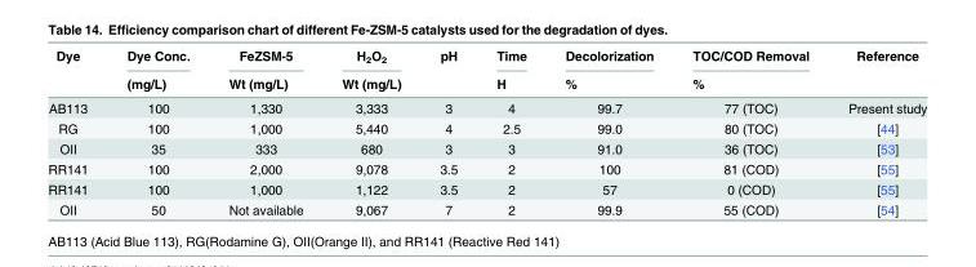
<table><thead><tr><td rowspan="2">Dye</td><td rowspan="2">Dye Conc. (mg/L)</td><td rowspan="2">FeZSM-5 Wt (mg/L)</td><td rowspan="2">H<sub>2</sub>O<sub>2</sub> Wt (mg/L)</td><td rowspan="2">pH</td><td rowspan="2">Time H</td><td rowspan="2">Decolorization %</td><td rowspan="2">TOC/COD Removal %</td><td rowspan="2">Reference</td></tr><tr></tr></thead><tbody><tr><td>AB113</td><td>100</td><td>1,330</td><td>3,333</td><td>3</td><td>4</td><td>99.7</td><td>77 (TOC)</td><td>Present study</td></tr><tr><td>RG</td><td>100</td><td>1,000</td><td>5,440</td><td>4</td><td>2.5</td><td>99.0</td><td>80 (TOC)</td><td>[44]</td></tr><tr><td>OII</td><td>35</td><td>333</td><td>680</td><td>3</td><td>3</td><td>91.0</td><td>36 (TOC)</td><td>[53]</td></tr><tr><td>RR141</td><td>100</td><td>2,000</td><td>9,078</td><td>3.5</td><td>2</td><td>100</td><td>81 (COD)</td><td>[55]</td></tr><tr><td>RR141</td><td>100</td><td>1,000</td><td>1,122</td><td>3.5</td><td>2</td><td>57</td><td>0 (COD)</td><td>[55]</td></tr><tr><td>OII</td><td>50</td><td>Not available</td><td>9,067</td><td>7</td><td>2</td><td>99.9</td><td>55 (COD)</td><td>[54]</td></tr></tbody></table>